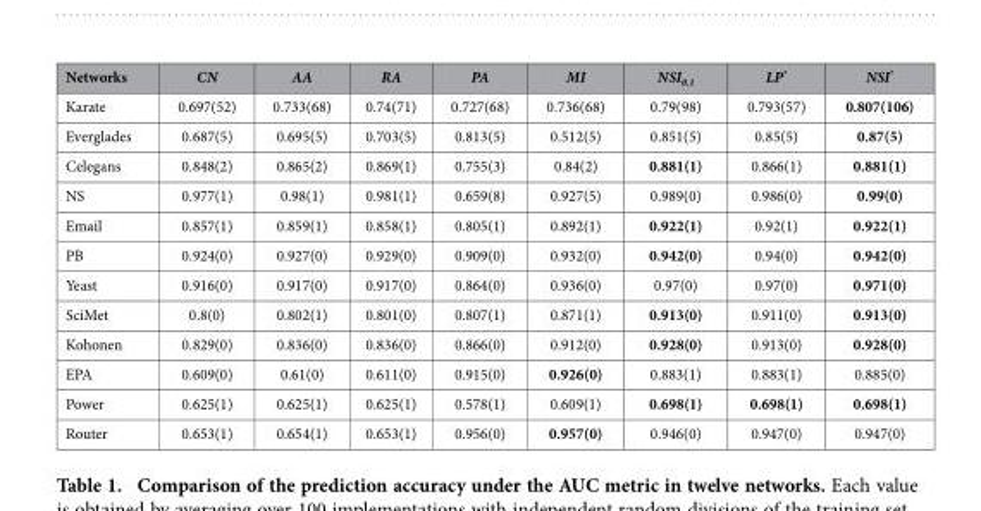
<table><thead><tr><td>Networks</td><td>CN</td><td>AA</td><td>RA</td><td>PA</td><td>MI</td><td>NSI<sub>0.1</sub></td><td>LP*</td><td>NSI*</td></tr></thead><tbody><tr><td>Karate</td><td>0.697(52)</td><td>0.733(68)</td><td>0.74(71)</td><td>0.727(68)</td><td>0.736(68)</td><td>0.79(98)</td><td>0.793(57)</td><td>0.807(106)</td></tr><tr><td>Everglades</td><td>0.687(5)</td><td>0.695(5)</td><td>0.703(5)</td><td>0.813(5)</td><td>0.512(5)</td><td>0.851(5)</td><td>0.85(5)</td><td>0.87(5)</td></tr><tr><td>Celegans</td><td>0.848(2)</td><td>0.865(2)</td><td>0.869(1)</td><td>0.755(3)</td><td>0.84(2)</td><td>0.881(1)</td><td>0.866(1)</td><td>0.881(1)</td></tr><tr><td>NS</td><td>0.977(1)</td><td>0.98(1)</td><td>0.981(1)</td><td>0.659(8)</td><td>0.927(5)</td><td>0.989(0)</td><td>0.986(0)</td><td>0.99(0)</td></tr><tr><td>Email</td><td>0.857(1)</td><td>0.859(1)</td><td>0.858(1)</td><td>0.805(1)</td><td>0.892(1)</td><td>0.922(1)</td><td>0.92(1)</td><td>0.922(1)</td></tr><tr><td>PB</td><td>0.924(0)</td><td>0.927(0)</td><td>0.929(0)</td><td>0.909(0)</td><td>0.932(0)</td><td>0.942(0)</td><td>0.94(0)</td><td>0.942(0)</td></tr><tr><td>Yeast</td><td>0.916(0)</td><td>0.917(0)</td><td>0.917(0)</td><td>0.864(0)</td><td>0.936(0)</td><td>0.97(0)</td><td>0.97(0)</td><td>0.971(0)</td></tr><tr><td>SciMet</td><td>0.8(0)</td><td>0.802(1)</td><td>0.801(0)</td><td>0.807(1)</td><td>0.871(1)</td><td>0.913(0)</td><td>0.911(0)</td><td>0.913(0)</td></tr><tr><td>Kohonen</td><td>0.829(0)</td><td>0.836(0)</td><td>0.836(0)</td><td>0.866(0)</td><td>0.912(0)</td><td>0.928(0)</td><td>0.913(0)</td><td>0.928(0)</td></tr><tr><td>EPA</td><td>0.609(0)</td><td>0.61(0)</td><td>0.611(0)</td><td>0.915(0)</td><td>0.926(0)</td><td>0.883(1)</td><td>0.883(1)</td><td>0.885(0)</td></tr><tr><td>Power</td><td>0.625(1)</td><td>0.625(1)</td><td>0.625(1)</td><td>0.578(1)</td><td>0.609(1)</td><td>0.698(1)</td><td>0.698(1)</td><td>0.698(1)</td></tr><tr><td>Router</td><td>0.653(1)</td><td>0.654(1)</td><td>0.653(1)</td><td>0.956(0)</td><td>0.957(0)</td><td>0.946(0)</td><td>0.947(0)</td><td>0.947(0)</td></tr></tbody></table>